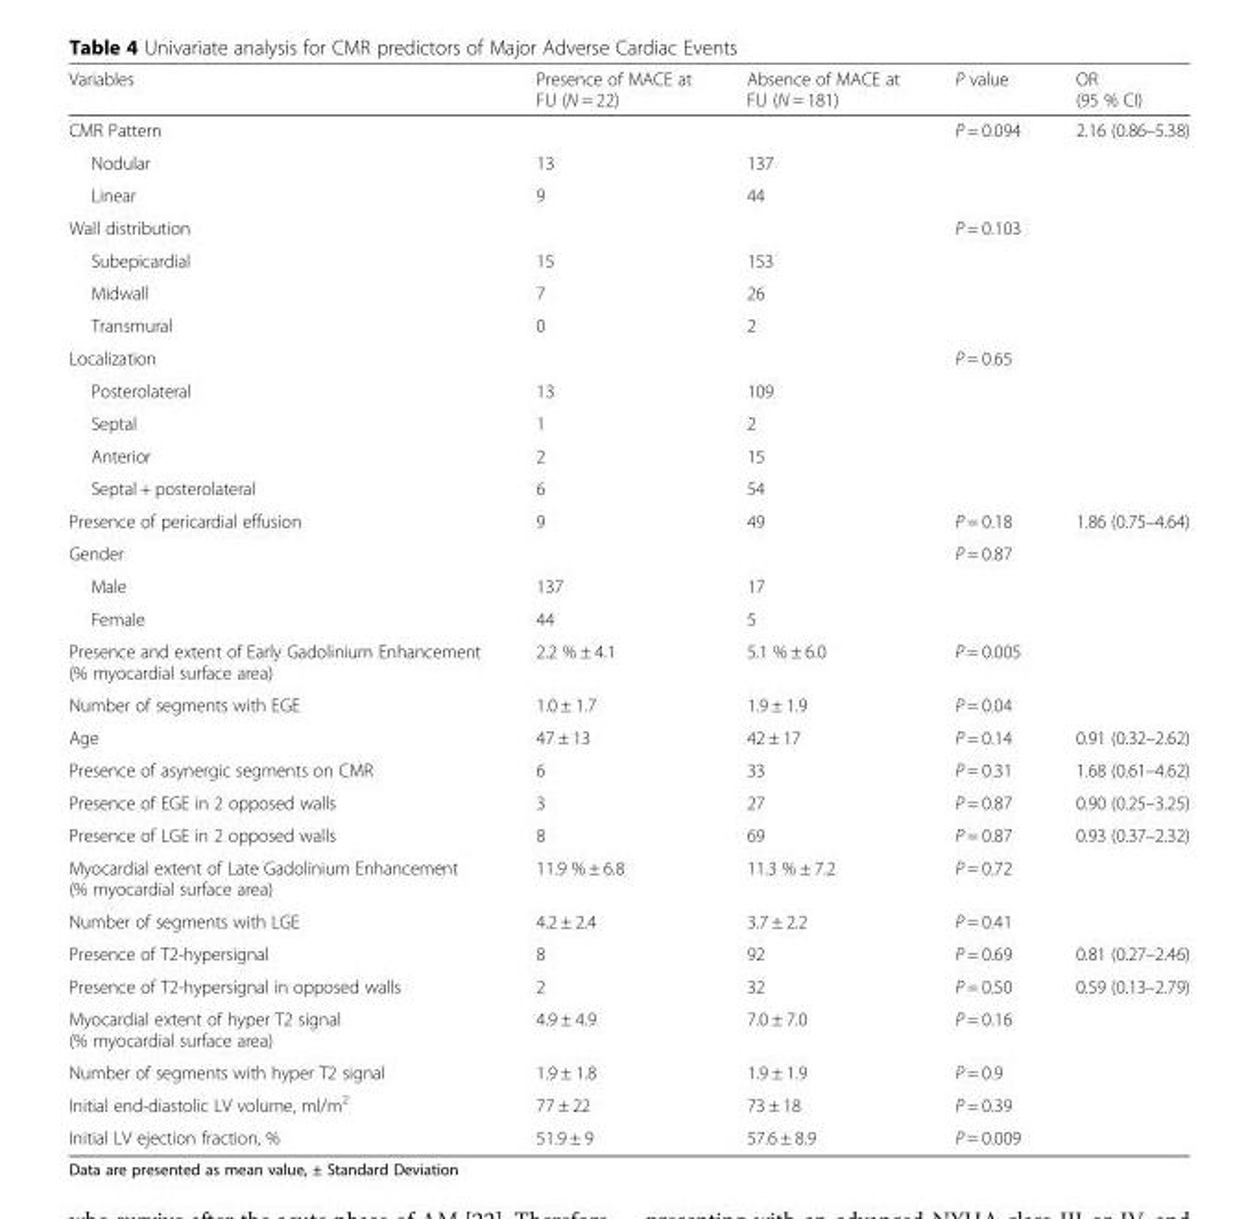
<table><thead><tr><td>Variables</td><td>Presence of MACE at FU (N = 22)</td><td>Absence of MACE at FU (N = 181)</td><td>P value</td><td>OR (95 % CI)</td></tr></thead><tbody><tr><td>CMR Pattern</td><td></td><td></td><td>P = 0.094</td><td>2.16 (0.86–5.38)</td></tr><tr><td>Nodular</td><td>13</td><td>137</td><td></td><td></td></tr><tr><td>Linear</td><td>9</td><td>44</td><td></td><td></td></tr><tr><td>Wall distribution</td><td></td><td></td><td>P = 0.103</td><td></td></tr><tr><td>Subepicardial</td><td>15</td><td>153</td><td></td><td></td></tr><tr><td>Midwall</td><td>7</td><td>26</td><td></td><td></td></tr><tr><td>Transmural</td><td>0</td><td>2</td><td></td><td></td></tr><tr><td>Localization</td><td></td><td></td><td>P = 0.65</td><td></td></tr><tr><td>Posterolateral</td><td>13</td><td>109</td><td></td><td></td></tr><tr><td>Septal</td><td>1</td><td>2</td><td></td><td></td></tr><tr><td>Anterior</td><td>2</td><td>15</td><td></td><td></td></tr><tr><td>Septal + posterolateral</td><td>6</td><td>54</td><td></td><td></td></tr><tr><td>Presence of pericardial effusion</td><td>9</td><td>49</td><td>P = 0.18</td><td>1.86 (0.75–4.64)</td></tr><tr><td>Gender</td><td></td><td></td><td>P = 0.87</td><td></td></tr><tr><td>Male</td><td>137</td><td>17</td><td></td><td></td></tr><tr><td>Female</td><td>44</td><td>5</td><td></td><td></td></tr><tr><td>Presence and extent of Early Gadolinium Enhancement (% myocardial surface area)</td><td>2.2 % ± 4.1</td><td>5.1 % ± 6.0</td><td>P = 0.005</td><td></td></tr><tr><td>Number of segments with EGE</td><td>1.0 ± 1.7</td><td>1.9 ± 1.9</td><td>P = 0.04</td><td></td></tr><tr><td>Age</td><td>47 ± 13</td><td>42 ± 17</td><td>P = 0.14</td><td>0.91 (0.32–2.62)</td></tr><tr><td>Presence of asynergic segments on CMR</td><td>6</td><td>33</td><td>P = 0.31</td><td>1.68 (0.61–4.62)</td></tr><tr><td>Presence of EGE in 2 opposed walls</td><td>3</td><td>27</td><td>P = 0.87</td><td>0.90 (0.25–3.25)</td></tr><tr><td>Presence of LGE in 2 opposed walls</td><td>8</td><td>69</td><td>P = 0.87</td><td>0.93 (0.37–2.32)</td></tr><tr><td>Myocardial extent of Late Gadolinium Enhancement (% myocardial surface area)</td><td>11.9 % ± 6.8</td><td>11.3 % ± 7.2</td><td>P = 0.72</td><td></td></tr><tr><td>Number of segments with LGE</td><td>4.2 ± 2.4</td><td>3.7 ± 2.2</td><td>P = 0.41</td><td></td></tr><tr><td>Presence of T2-hypersignal</td><td>8</td><td>92</td><td>P = 0.69</td><td>0.81 (0.27–2.46)</td></tr><tr><td>Presence of T2-hypersignal in opposed walls</td><td>2</td><td>32</td><td>P = 0.50</td><td>0.59 (0.13–2.79)</td></tr><tr><td>Myocardial extent of hyper T2 signal (% myocardial surface area)</td><td>4.9 ± 4.9</td><td>7.0 ± 7.0</td><td>P = 0.16</td><td></td></tr><tr><td>Number of segments with hyper T2 signal</td><td>1.9 ± 1.8</td><td>1.9 ± 1.9</td><td>P = 0.9</td><td></td></tr><tr><td>Initial end-diastolic LV volume, ml/m<sup>2</sup></td><td>77 ± 22</td><td>73 ± 18</td><td>P = 0.39</td><td></td></tr><tr><td>Initial LV ejection fraction, %</td><td>51.9 ± 9</td><td>57.6 ± 8.9</td><td>P = 0.009</td><td></td></tr></tbody></table>